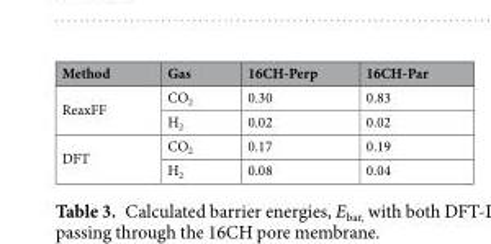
<table><thead><tr><td>Method</td><td>Gas</td><td>16CH-Perp</td><td>16CH-Par</td></tr></thead><tbody><tr><td rowspan="2">ReaxFF</td><td>CO<sub>2</sub></td><td>0.30</td><td>0.83</td></tr><tr><td>H<sub>2</sub></td><td>0.02</td><td>0.02</td></tr><tr><td rowspan="2">DFT</td><td>CO<sub>2</sub></td><td>0.17</td><td>0.19</td></tr><tr><td>H<sub>2</sub></td><td>0.08</td><td>0.04</td></tr></tbody></table>